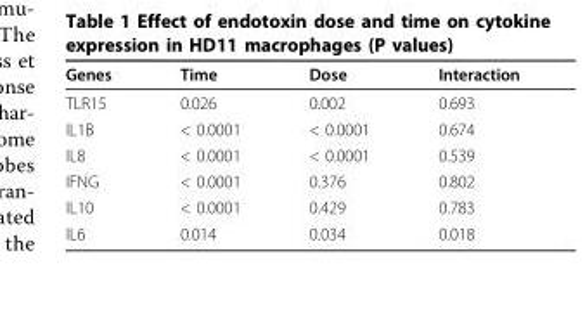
<table><thead><tr><td>Genes</td><td>Time</td><td>Dose</td><td>Interaction</td></tr></thead><tbody><tr><td>TLR15</td><td>0.026</td><td>0.002</td><td>0.693</td></tr><tr><td>IL1B</td><td>&lt; 0.0001</td><td>&lt; 0.0001</td><td>0.674</td></tr><tr><td>IL8</td><td>&lt; 0.0001</td><td>&lt; 0.0001</td><td>0.539</td></tr><tr><td>IFNG</td><td>&lt; 0.0001</td><td>0.376</td><td>0.802</td></tr><tr><td>IL10</td><td>&lt; 0.0001</td><td>0.429</td><td>0.783</td></tr><tr><td>IL6</td><td>0.014</td><td>0.034</td><td>0.018</td></tr></tbody></table>